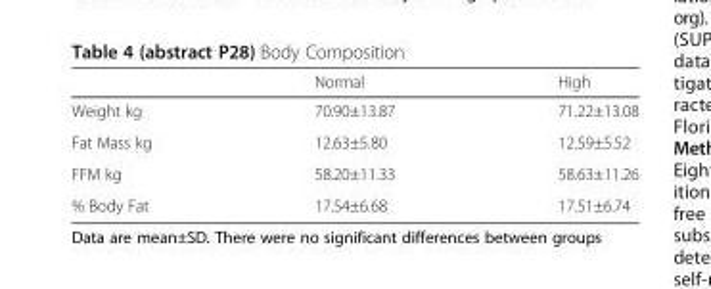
<table><thead><tr><td></td><td>Normal</td><td>High</td></tr></thead><tbody><tr><td>Weight kg</td><td>70.90±13.87</td><td>71.22±13.08</td></tr><tr><td>Fat Mass kg</td><td>12.63±5.80</td><td>12.59±5.52</td></tr><tr><td>FFM kg</td><td>58.20±11.33</td><td>58.63±11.26</td></tr><tr><td>% Body Fat</td><td>17.54±6.68</td><td>17.51±6.74</td></tr></tbody></table>